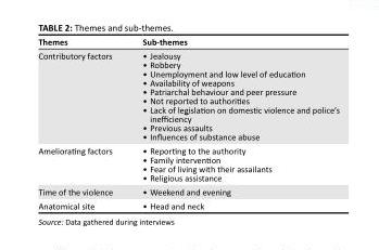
<table><thead><tr><td>Themes</td><td>Sub-themes</td></tr></thead><tbody><tr><td>Contributory factors</td><td>• Jealousy • Robbery • Unemployment and low level of education • Availability of weapons • Patriarchal behaviour and peer pressure • Not reported to authorities • Lack of legislation on domestic violence and police’s inefficiency • Previous assaults • Influences of substance abuse</td></tr><tr><td>Ameliorating factors</td><td>• Reporting to the authority • Family intervention • Fear of living with their assailants • Religious assistance</td></tr><tr><td>Time of the violence</td><td>• Weekend and evening</td></tr><tr><td>Anatomical site</td><td>• Head and neck</td></tr></tbody></table>